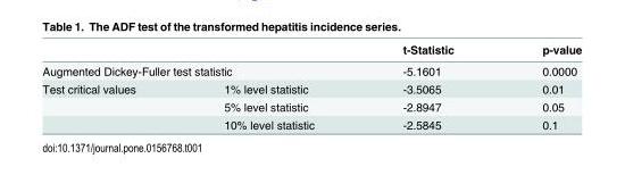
<table><thead><tr><td></td><td></td><td>t-Statistic</td><td>p-value</td></tr></thead><tbody><tr><td colspan="2">Augmented Dickey-Fuller test statistic</td><td>-5.1601</td><td>0.0000</td></tr><tr><td rowspan="3">Test critical values</td><td>1% level statistic</td><td>-3.5065</td><td>0.01</td></tr><tr><td>5% level statistic</td><td>-2.8947</td><td>0.05</td></tr><tr><td>10% level statistic</td><td>-2.5845</td><td>0.1</td></tr></tbody></table>